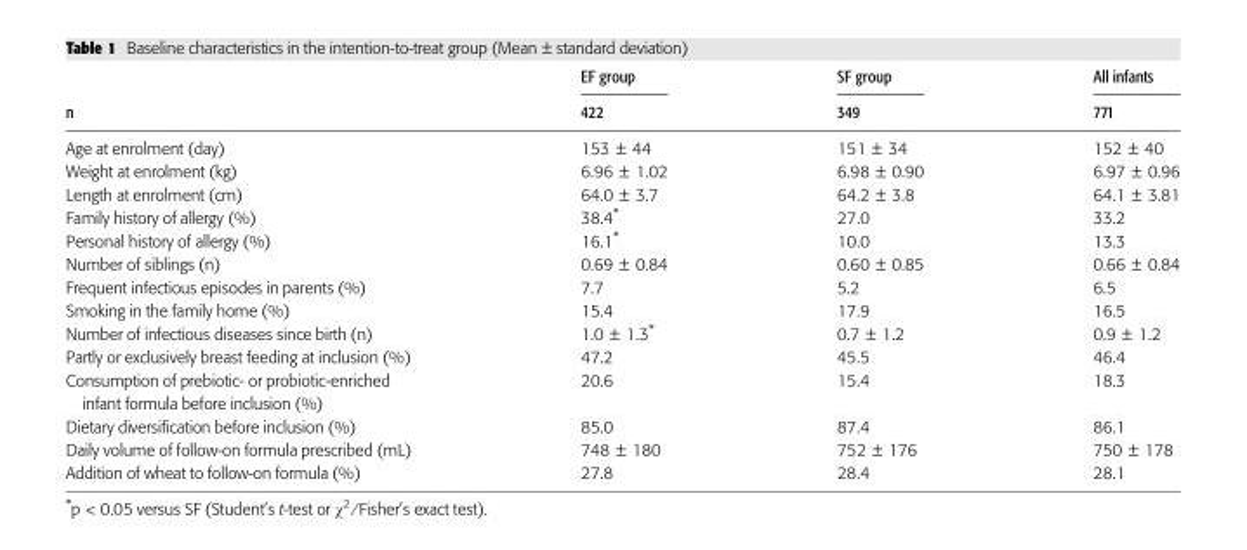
<table><thead><tr><td rowspan="2">n</td><td rowspan="2">EF group 422</td><td rowspan="2">SF group 349</td><td rowspan="2">All infants 771</td></tr><tr></tr></thead><tbody><tr><td>Age at enrolment (day)</td><td>153 ± 44</td><td>151 ± 34</td><td>152 ± 40</td></tr><tr><td>Weight at enrolment (kg)</td><td>6.96 ± 1.02</td><td>6.98 ± 0.90</td><td>6.97 ± 0.96</td></tr><tr><td>Length at enrolment (cm)</td><td>64.0 ± 3.7</td><td>64.2 ± 3.8</td><td>64.1 ± 3.81</td></tr><tr><td>Family history of allergy (%)</td><td>38.4*</td><td>27.0</td><td>33.2</td></tr><tr><td>Personal history of allergy (%)</td><td>16.1*</td><td>10.0</td><td>13.3</td></tr><tr><td>Number of siblings (n)</td><td>0.69 ± 0.84</td><td>0.60 ± 0.85</td><td>0.66 ± 0.84</td></tr><tr><td>Frequent infectious episodes in parents (%)</td><td>7.7</td><td>5.2</td><td>6.5</td></tr><tr><td>Smoking in the family home (%)</td><td>15.4</td><td>17.9</td><td>16.5</td></tr><tr><td>Number of infectious diseases since birth (n)</td><td>1.0 ± 1.3*</td><td>0.7 ± 1.2</td><td>0.9 ± 1.2</td></tr><tr><td>Partly or exclusively breast feeding at inclusion (%)</td><td>47.2</td><td>45.5</td><td>46.4</td></tr><tr><td>Consumption of prebiotic- or probiotic-enriched infant formula before inclusion (%)</td><td>20.6</td><td>15.4</td><td>18.3</td></tr><tr><td>Dietary diversification before inclusion (%)</td><td>85.0</td><td>87.4</td><td>86.1</td></tr><tr><td>Daily volume of follow-on formula prescribed (mL)</td><td>748 ± 180</td><td>752 ± 176</td><td>750 ± 178</td></tr><tr><td>Addition of wheat to follow-on formula (%)</td><td>27.8</td><td>28.4</td><td>28.1</td></tr></tbody></table>